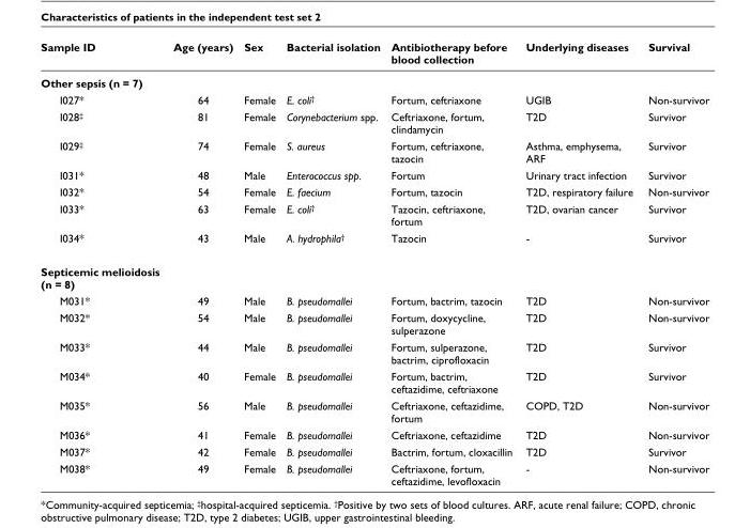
<table><thead><tr><td>Sample ID</td><td>Age (years)</td><td>Sex</td><td>Bacterial isolation</td><td>Antibiotherapy before blood collection</td><td>Underlying diseases</td><td>Survival</td></tr></thead><tbody><tr><td colspan="7">Other sepsis (n = 7)</td></tr><tr><td>I027*</td><td>64</td><td>Female</td><td>E. coli<sup>†</sup></td><td>Fortum, ceftriaxone</td><td>UGIB</td><td>Non-survivor</td></tr><tr><td>I028<sup>‡</sup></td><td>81</td><td>Female</td><td>Corynebacterium spp.</td><td>Ceftriaxone, fortum, clindamycin</td><td>T2D</td><td>Survivor</td></tr><tr><td>I029<sup>‡</sup></td><td>74</td><td>Female</td><td>S. aureus</td><td>Fortum, ceftriaxone, tazocin</td><td>Asthma, emphysema, ARF</td><td>Survivor</td></tr><tr><td>I031*</td><td>48</td><td>Male</td><td>Enterococcus spp.</td><td>Fortum</td><td>Urinary tract infection</td><td>Survivor</td></tr><tr><td>I032*</td><td>54</td><td>Female</td><td>E. faecium</td><td>Fortum, tazocin</td><td>T2D, respiratory failure</td><td>Non-survivor</td></tr><tr><td>I033*</td><td>63</td><td>Female</td><td>E. coli<sup>†</sup></td><td>Tazocin, ceftriaxone, fortum</td><td>T2D, ovarian cancer</td><td>Survivor</td></tr><tr><td>I034*</td><td>43</td><td>Male</td><td>A. hydrophila<sup>†</sup></td><td>Tazocin</td><td>-</td><td>Survivor</td></tr><tr><td colspan="7">Septicemic melioidosis (n = 8)</td></tr><tr><td>M031*</td><td>49</td><td>Male</td><td>B. pseudomallei</td><td>Fortum, bactrim, tazocin</td><td>T2D</td><td>Non-survivor</td></tr><tr><td>M032*</td><td>54</td><td>Male</td><td>B. pseudomallei</td><td>Fortum, doxycycline, sulperazone</td><td>T2D</td><td>Non-survivor</td></tr><tr><td>M033*</td><td>44</td><td>Male</td><td>B. pseudomallei</td><td>Fortum, sulperazone, bactrim, ciprofloxacin</td><td>T2D</td><td>Survivor</td></tr><tr><td>M034*</td><td>40</td><td>Female</td><td>B. pseudomallei</td><td>Fortum, bactrim, ceftazidime, ceftriaxone</td><td>T2D</td><td>Survivor</td></tr><tr><td>M035*</td><td>56</td><td>Male</td><td>B. pseudomallei</td><td>Ceftriaxone, ceftazidime, fortum</td><td>COPD, T2D</td><td>Non-survivor</td></tr><tr><td>M036*</td><td>41</td><td>Female</td><td>B. pseudomallei</td><td>Ceftriaxone, ceftazidime</td><td>T2D</td><td>Non-survivor</td></tr><tr><td>M037*</td><td>42</td><td>Female</td><td>B. pseudomallei</td><td>Bactrim, fortum, cloxacillin</td><td>T2D</td><td>Survivor</td></tr><tr><td>M038*</td><td>49</td><td>Female</td><td>B. pseudomallei</td><td>Ceftriaxone, fortum, ceftazidime, levofloxacin</td><td>-</td><td>Non-survivor</td></tr></tbody></table>